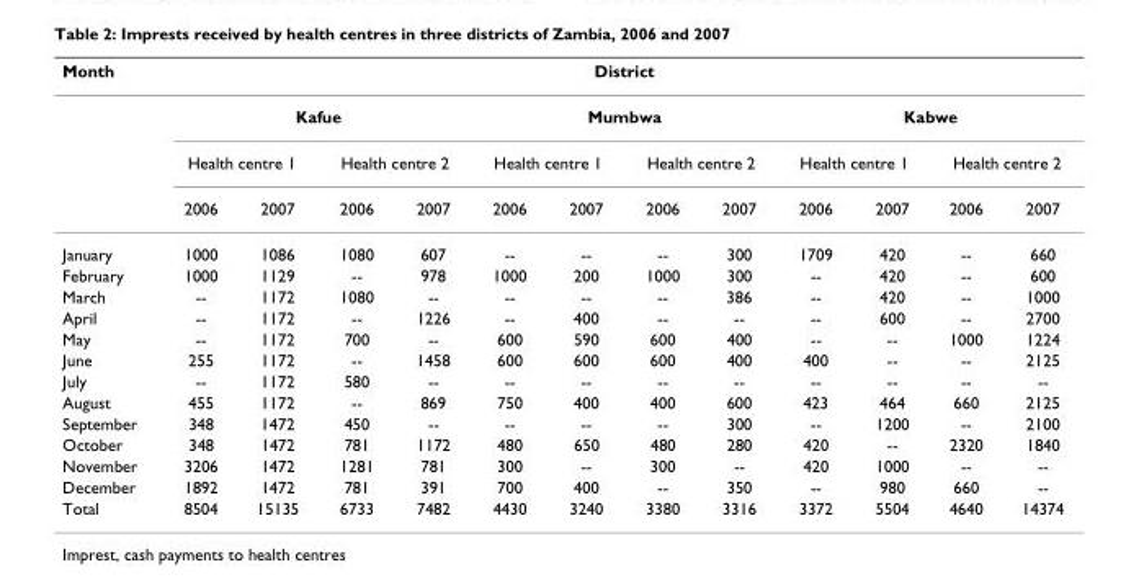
<table><thead><tr><td rowspan="4">Month</td><td colspan="12">District</td></tr><tr><td colspan="4">Kafue</td><td colspan="4">Mumbwa</td><td colspan="4">Kabwe</td></tr><tr><td colspan="2">Health centre 1</td><td colspan="2">Health centre 2</td><td colspan="2">Health centre 1</td><td colspan="2">Health centre 2</td><td colspan="2">Health centre 1</td><td colspan="2">Health centre 2</td></tr><tr><td>2006</td><td>2007</td><td>2006</td><td>2007</td><td>2006</td><td>2007</td><td>2006</td><td>2007</td><td>2006</td><td>2007</td><td>2006</td><td>2007</td></tr></thead><tbody><tr><td>January</td><td>1000</td><td>1086</td><td>1080</td><td>607</td><td>--</td><td>--</td><td>--</td><td>300</td><td>1709</td><td>420</td><td>--</td><td>660</td></tr><tr><td>February</td><td>1000</td><td>1129</td><td>--</td><td>978</td><td>1000</td><td>200</td><td>1000</td><td>300</td><td>--</td><td>420</td><td>--</td><td>600</td></tr><tr><td>March</td><td>--</td><td>1172</td><td>1080</td><td>--</td><td>--</td><td>--</td><td>--</td><td>386</td><td>--</td><td>420</td><td>--</td><td>1000</td></tr><tr><td>April</td><td>--</td><td>1172</td><td>--</td><td>1226</td><td>--</td><td>400</td><td>--</td><td>--</td><td>--</td><td>600</td><td>--</td><td>2700</td></tr><tr><td>May</td><td>--</td><td>1172</td><td>700</td><td>--</td><td>600</td><td>590</td><td>600</td><td>400</td><td>--</td><td>--</td><td>1000</td><td>1224</td></tr><tr><td>June</td><td>255</td><td>1172</td><td>--</td><td>1458</td><td>600</td><td>600</td><td>600</td><td>400</td><td>400</td><td>--</td><td>--</td><td>2125</td></tr><tr><td>July</td><td>--</td><td>1172</td><td>580</td><td>--</td><td>--</td><td>--</td><td>--</td><td>--</td><td>--</td><td>--</td><td>--</td><td>--</td></tr><tr><td>August</td><td>455</td><td>1172</td><td>--</td><td>869</td><td>750</td><td>400</td><td>400</td><td>600</td><td>423</td><td>464</td><td>660</td><td>2125</td></tr><tr><td>September</td><td>348</td><td>1472</td><td>450</td><td>--</td><td>--</td><td>--</td><td>--</td><td>300</td><td>--</td><td>1200</td><td>--</td><td>2100</td></tr><tr><td>October</td><td>348</td><td>1472</td><td>781</td><td>1172</td><td>480</td><td>650</td><td>480</td><td>280</td><td>420</td><td>--</td><td>2320</td><td>1840</td></tr><tr><td>November</td><td>3206</td><td>1472</td><td>1281</td><td>781</td><td>300</td><td>--</td><td>300</td><td>--</td><td>420</td><td>1000</td><td>--</td><td>--</td></tr><tr><td>December</td><td>1892</td><td>1472</td><td>781</td><td>391</td><td>700</td><td>400</td><td>--</td><td>350</td><td>--</td><td>980</td><td>660</td><td>--</td></tr><tr><td>Total</td><td>8504</td><td>15135</td><td>6733</td><td>7482</td><td>4430</td><td>3240</td><td>3380</td><td>3316</td><td>3372</td><td>5504</td><td>4640</td><td>14374</td></tr></tbody></table>